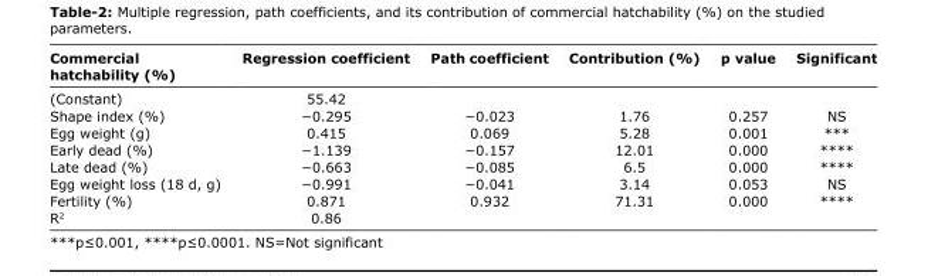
<table><thead><tr><td>Commercial hatchability (%)</td><td>Regression coefficient</td><td>Path coefficient</td><td>Contribution (%)</td><td>p value</td><td>Significant</td></tr></thead><tbody><tr><td>(Constant)</td><td>55.42</td><td></td><td></td><td></td><td></td></tr><tr><td>Shape index (%)</td><td>−0.295</td><td>−0.023</td><td>1.76</td><td>0.257</td><td>NS</td></tr><tr><td>Egg weight (g)</td><td>0.415</td><td>0.069</td><td>5.28</td><td>0.001</td><td>***</td></tr><tr><td>Early dead (%)</td><td>−1.139</td><td>−0.157</td><td>12.01</td><td>0.000</td><td>****</td></tr><tr><td>Late dead (%)</td><td>−0.663</td><td>−0.085</td><td>6.5</td><td>0.000</td><td>****</td></tr><tr><td>Egg weight loss (18 d, g)</td><td>−0.991</td><td>−0.041</td><td>3.14</td><td>0.053</td><td>NS</td></tr><tr><td>Fertility (%)</td><td>0.871</td><td>0.932</td><td>71.31</td><td>0.000</td><td>****</td></tr><tr><td>R<sup>2</sup></td><td>0.86</td><td></td><td></td><td></td><td></td></tr></tbody></table>